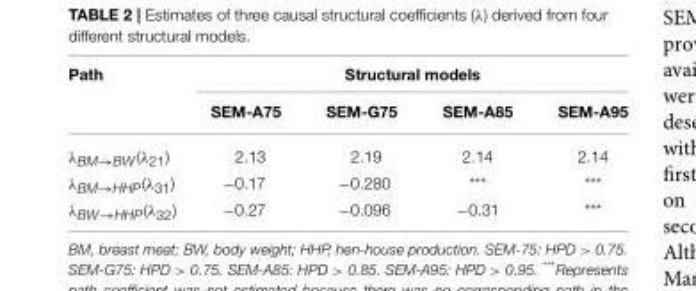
<table><thead><tr><td rowspan="2">Path</td><td colspan="4">Structural models</td></tr><tr><td>SEM-A75</td><td>SEM-G75</td><td>SEM-A85</td><td>SEM-A95</td></tr></thead><tbody><tr><td>λ<sub>BM→BW</sub>(λ<sub>21</sub>)</td><td>2.13</td><td>2.19</td><td>2.14</td><td>2.14</td></tr><tr><td>λ<sub>BM→HHP</sub>(λ<sub>31</sub>)</td><td>−0.17</td><td>−0.280</td><td>***</td><td>***</td></tr><tr><td><sub>λ</sub>BW→HHP<sub>(λ32</sub>)</td><td>−0.27</td><td>−0.096</td><td>−0.31</td><td>***</td></tr></tbody></table>